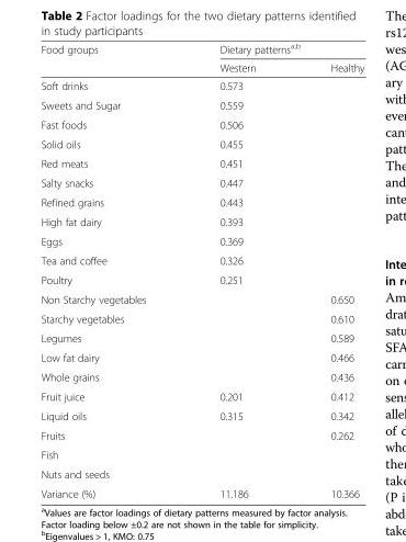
<table><thead><tr><td rowspan="2">Food groups</td><td colspan="2">Dietary patterns<sup>a,b</sup></td></tr><tr><td>Western</td><td>Healthy</td></tr></thead><tbody><tr><td>Soft drinks</td><td>0.573</td><td></td></tr><tr><td>Sweets and Sugar</td><td>0.559</td><td></td></tr><tr><td>Fast foods</td><td>0.506</td><td></td></tr><tr><td>Solid oils</td><td>0.455</td><td></td></tr><tr><td>Red meats</td><td>0.451</td><td></td></tr><tr><td>Salty snacks</td><td>0.447</td><td></td></tr><tr><td>Refined grains</td><td>0.443</td><td></td></tr><tr><td>High fat dairy</td><td>0.393</td><td></td></tr><tr><td>Eggs</td><td>0.369</td><td></td></tr><tr><td>Tea and coffee</td><td>0.326</td><td></td></tr><tr><td>Poultry</td><td>0.251</td><td></td></tr><tr><td>Non Starchy vegetables</td><td></td><td>0.650</td></tr><tr><td>Starchy vegetables</td><td></td><td>0.610</td></tr><tr><td>Legumes</td><td></td><td>0.589</td></tr><tr><td>Low fat dairy</td><td></td><td>0.466</td></tr><tr><td>Whole grains</td><td></td><td>0.436</td></tr><tr><td>Fruit juice</td><td>0.201</td><td>0.412</td></tr><tr><td>Liquid oils</td><td>0.315</td><td>0.342</td></tr><tr><td>Fruits</td><td></td><td>0.262</td></tr><tr><td colspan="3">Fish</td></tr><tr><td colspan="3">Nuts and seeds</td></tr><tr><td>Variance (%)</td><td>11.186</td><td>10.366</td></tr></tbody></table>